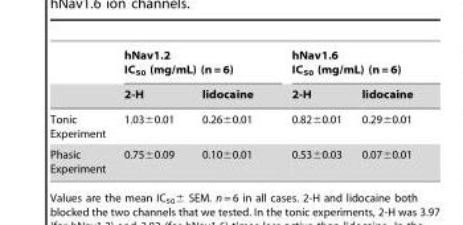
<table><thead><tr><td rowspan="2"></td><td colspan="2">hNav1.2 IC<sub>50</sub> (mg/mL) (n = 6)</td><td colspan="2">hNav1.6 IC<sub>50</sub> (mg/mL) (n = 6)</td></tr><tr><td>2-H</td><td>lidocaine</td><td>2-H</td><td>lidocaine</td></tr></thead><tbody><tr><td>Tonic Experiment</td><td>1.03±0.01</td><td>0.26±0.01</td><td>0.82±0.01</td><td>0.29±0.01</td></tr><tr><td>Phasic Experiment</td><td>0.75±0.09</td><td>0.10±0.01</td><td>0.53±0.03</td><td>0.07±0.01</td></tr></tbody></table>